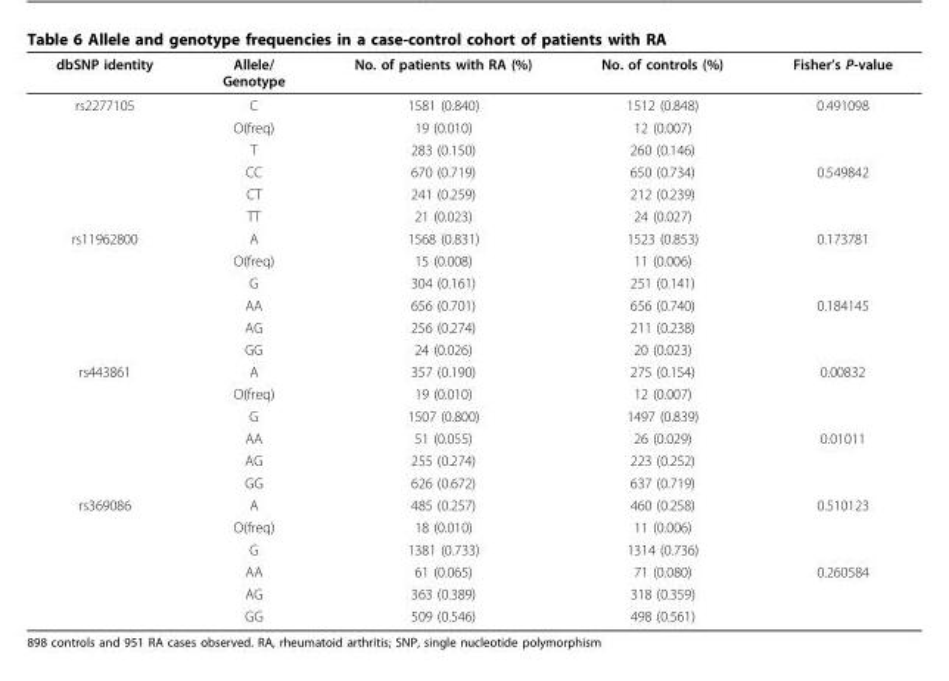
<table><thead><tr><td>dbSNP identity</td><td>Allele/ Genotype</td><td>No. of patients with RA (%)</td><td>No. of controls (%)</td><td>Fisher’s P-value</td></tr></thead><tbody><tr><td rowspan="6">rs2277105</td><td>C</td><td>1581 (0.840)</td><td>1512 (0.848)</td><td>0.491098</td></tr><tr><td>O(freq)</td><td>19 (0.010)</td><td>12 (0.007)</td><td></td></tr><tr><td>T</td><td>283 (0.150)</td><td>260 (0.146)</td><td></td></tr><tr><td>CC</td><td>670 (0.719)</td><td>650 (0.734)</td><td>0.549842</td></tr><tr><td>CT</td><td>241 (0.259)</td><td>212 (0.239)</td><td></td></tr><tr><td>TT</td><td>21 (0.023)</td><td>24 (0.027)</td><td></td></tr><tr><td rowspan="6">rs11962800</td><td>A</td><td>1568 (0.831)</td><td>1523 (0.853)</td><td>0.173781</td></tr><tr><td>O(freq)</td><td>15 (0.008)</td><td>11 (0.006)</td><td></td></tr><tr><td>G</td><td>304 (0.161)</td><td>251 (0.141)</td><td></td></tr><tr><td>AA</td><td>656 (0.701)</td><td>656 (0.740)</td><td>0.184145</td></tr><tr><td>AG</td><td>256 (0.274)</td><td>211 (0.238)</td><td></td></tr><tr><td>GG</td><td>24 (0.026)</td><td>20 (0.023)</td><td></td></tr><tr><td rowspan="6">rs443861</td><td>A</td><td>357 (0.190)</td><td>275 (0.154)</td><td>0.00832</td></tr><tr><td>O(freq)</td><td>19 (0.010)</td><td>12 (0.007)</td><td></td></tr><tr><td>G</td><td>1507 (0.800)</td><td>1497 (0.839)</td><td></td></tr><tr><td>AA</td><td>51 (0.055)</td><td>26 (0.029)</td><td>0.01011</td></tr><tr><td>AG</td><td>255 (0.274)</td><td>223 (0.252)</td><td></td></tr><tr><td>GG</td><td>626 (0.672)</td><td>637 (0.719)</td><td></td></tr><tr><td rowspan="6">rs369086</td><td>A</td><td>485 (0.257)</td><td>460 (0.258)</td><td>0.510123</td></tr><tr><td>O(freq)</td><td>18 (0.010)</td><td>11 (0.006)</td><td></td></tr><tr><td>G</td><td>1381 (0.733)</td><td>1314 (0.736)</td><td></td></tr><tr><td>AA</td><td>61 (0.065)</td><td>71 (0.080)</td><td>0.260584</td></tr><tr><td>AG</td><td>363 (0.389)</td><td>318 (0.359)</td><td></td></tr><tr><td>GG</td><td>509 (0.546)</td><td>498 (0.561)</td><td></td></tr></tbody></table>